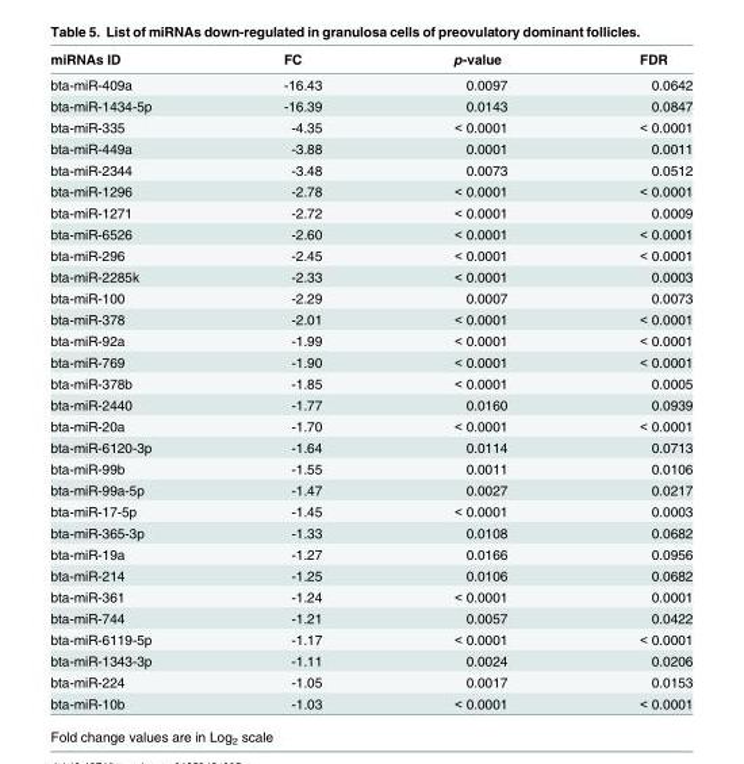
<table><thead><tr><td>miRNAs ID</td><td>FC</td><td>p-value</td><td>FDR</td></tr></thead><tbody><tr><td>bta-miR-409a</td><td>-16.43</td><td>0.0097</td><td>0.0642</td></tr><tr><td>bta-miR-1434-5p</td><td>-16.39</td><td>0.0143</td><td>0.0847</td></tr><tr><td>bta-miR-335</td><td>-4.35</td><td>&lt; 0.0001</td><td>&lt; 0.0001</td></tr><tr><td>bta-miR-449a</td><td>-3.88</td><td>0.0001</td><td>0.0011</td></tr><tr><td>bta-miR-2344</td><td>-3.48</td><td>0.0073</td><td>0.0512</td></tr><tr><td>bta-miR-1296</td><td>-2.78</td><td>&lt; 0.0001</td><td>&lt; 0.0001</td></tr><tr><td>bta-miR-1271</td><td>-2.72</td><td>&lt; 0.0001</td><td>0.0009</td></tr><tr><td>bta-miR-6526</td><td>-2.60</td><td>&lt; 0.0001</td><td>&lt; 0.0001</td></tr><tr><td>bta-miR-296</td><td>-2.45</td><td>&lt; 0.0001</td><td>&lt; 0.0001</td></tr><tr><td>bta-miR-2285k</td><td>-2.33</td><td>&lt; 0.0001</td><td>0.0003</td></tr><tr><td>bta-miR-100</td><td>-2.29</td><td>0.0007</td><td>0.0073</td></tr><tr><td>bta-miR-378</td><td>-2.01</td><td>&lt; 0.0001</td><td>&lt; 0.0001</td></tr><tr><td>bta-miR-92a</td><td>-1.99</td><td>&lt; 0.0001</td><td>&lt; 0.0001</td></tr><tr><td>bta-miR-769</td><td>-1.90</td><td>&lt; 0.0001</td><td>&lt; 0.0001</td></tr><tr><td>bta-miR-378b</td><td>-1.85</td><td>&lt; 0.0001</td><td>0.0005</td></tr><tr><td>bta-miR-2440</td><td>-1.77</td><td>0.0160</td><td>0.0939</td></tr><tr><td>bta-miR-20a</td><td>-1.70</td><td>&lt; 0.0001</td><td>&lt; 0.0001</td></tr><tr><td>bta-miR-6120-3p</td><td>-1.64</td><td>0.0114</td><td>0.0713</td></tr><tr><td>bta-miR-99b</td><td>-1.55</td><td>0.0011</td><td>0.0106</td></tr><tr><td>bta-miR-99a-5p</td><td>-1.47</td><td>0.0027</td><td>0.0217</td></tr><tr><td>bta-miR-17-5p</td><td>-1.45</td><td>&lt; 0.0001</td><td>0.0003</td></tr><tr><td>bta-miR-365-3p</td><td>-1.33</td><td>0.0108</td><td>0.0682</td></tr><tr><td>bta-miR-19a</td><td>-1.27</td><td>0.0166</td><td>0.0956</td></tr><tr><td>bta-miR-214</td><td>-1.25</td><td>0.0106</td><td>0.0682</td></tr><tr><td>bta-miR-361</td><td>-1.24</td><td>&lt; 0.0001</td><td>0.0001</td></tr><tr><td>bta-miR-744</td><td>-1.21</td><td>0.0057</td><td>0.0422</td></tr><tr><td>bta-miR-6119-5p</td><td>-1.17</td><td>&lt; 0.0001</td><td>&lt; 0.0001</td></tr><tr><td>bta-miR-1343-3p</td><td>-1.11</td><td>0.0024</td><td>0.0206</td></tr><tr><td>bta-miR-224</td><td>-1.05</td><td>0.0017</td><td>0.0153</td></tr><tr><td>bta-miR-10b</td><td>-1.03</td><td>&lt; 0.0001</td><td>&lt; 0.0001</td></tr></tbody></table>